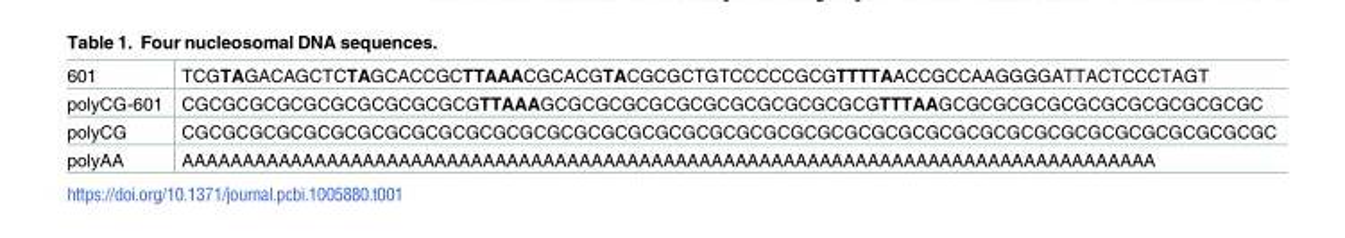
<table><tbody><tr><td>601</td><td>TCGTAGACAGCTCTAGCACCGCTTAAACGCACGTACGCGCTGTCCCCCGCGTTTTAACCGCCAAGGGGATTACTCCCTAGT</td></tr><tr><td>polyCG-601</td><td>CGCGCGCGCGCGCGCGCGCGCGTTAAAGCGCGCGCGCGCGCGCGCGCGCGCGTTTAAGCGCGCGCGCGCGCGCGCGCGCGC</td></tr><tr><td>polyCG</td><td>CGCGCGCGCGCGCGCGCGCGCGCGCGCGCGCGCGCGCGCGCGCGCGCGCGCGCGCGCGCGCGCGCGCGCGCGCGCGCGCGC</td></tr><tr><td>polyAA</td><td>AAAAAAAAAAAAAAAAAAAAAAAAAAAAAAAAAAAAAAAAAAAAAAAAAAAAAAAAAAAAAAAAAAAAAAAAAAAAAAAAA</td></tr></tbody></table>